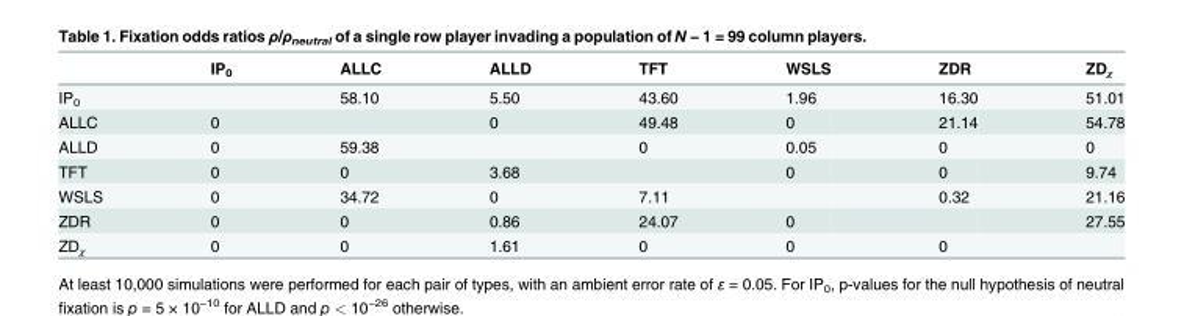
<table><thead><tr><td></td><td>IP<sub>0</sub></td><td>ALLC</td><td>ALLD</td><td>TFT</td><td>WSLS</td><td>ZDR</td><td>ZD<sub>χ</sub></td></tr></thead><tbody><tr><td>IP<sub>0</sub></td><td></td><td>58.10</td><td>5.50</td><td>43.60</td><td>1.96</td><td>16.30</td><td>51.01</td></tr><tr><td>ALLC</td><td>0</td><td></td><td>0</td><td>49.48</td><td>0</td><td>21.14</td><td>54.78</td></tr><tr><td>ALLD</td><td>0</td><td>59.38</td><td></td><td>0</td><td>0.05</td><td>0</td><td>0</td></tr><tr><td>TFT</td><td>0</td><td>0</td><td>3.68</td><td></td><td>0</td><td>0</td><td>9.74</td></tr><tr><td>WSLS</td><td>0</td><td>34.72</td><td>0</td><td>7.11</td><td></td><td>0.32</td><td>21.16</td></tr><tr><td>ZDR</td><td>0</td><td>0</td><td>0.86</td><td>24.07</td><td>0</td><td></td><td>27.55</td></tr><tr><td>ZD<sub>χ</sub></td><td>0</td><td>0</td><td>1.61</td><td>0</td><td>0</td><td>0</td><td></td></tr></tbody></table>